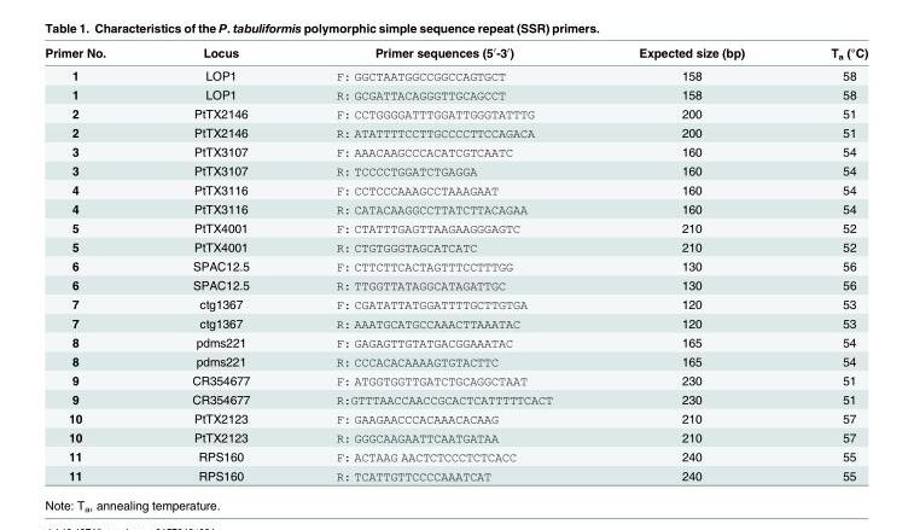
<table><thead><tr><td>Primer No.</td><td>Locus</td><td>Primer sequences (5′-3′)</td><td>Expected size (bp)</td><td>T<sub>a</sub> (°C)</td></tr></thead><tbody><tr><td>1</td><td>LOP1</td><td>F: GGCTAATGGCCGGCCAGTGCT</td><td>158</td><td>58</td></tr><tr><td>1</td><td>LOP1</td><td>R: GCGATTACAGGGTTGCAGCCT</td><td>158</td><td>58</td></tr><tr><td>2</td><td>PtTX2146</td><td>F: CCTGGGGATTTGGATTGGGTATTTG</td><td>200</td><td>51</td></tr><tr><td>2</td><td>PtTX2146</td><td>R: ATATTTTCCTTGCCCCTTCCAGACA</td><td>200</td><td>51</td></tr><tr><td>3</td><td>PtTX3107</td><td>F: AAACAAGCCCACATCGTCAATC</td><td>160</td><td>54</td></tr><tr><td>3</td><td>PtTX3107</td><td>R: TCCCCTGGATCTGAGGA</td><td>160</td><td>54</td></tr><tr><td>4</td><td>PtTX3116</td><td>F: CCTCCCAAAGCCTAAAGAAT</td><td>160</td><td>54</td></tr><tr><td>4</td><td>PtTX3116</td><td>R: CATACAAGGCCTTATCTTACAGAA</td><td>160</td><td>54</td></tr><tr><td>5</td><td>PtTX4001</td><td>F: CTATTTGAGTTAAGAAGGGAGTC</td><td>210</td><td>52</td></tr><tr><td>5</td><td>PtTX4001</td><td>R: CTGTGGGTAGCATCATC</td><td>210</td><td>52</td></tr><tr><td>6</td><td>SPAC12.5</td><td>F: CTTCTTCACTAGTTTCCTTTGG</td><td>130</td><td>56</td></tr><tr><td>6</td><td>SPAC12.5</td><td>R: TTGGTTATAGGCATAGATTGC</td><td>130</td><td>56</td></tr><tr><td>7</td><td>ctg1367</td><td>F: CGATATTATGGATTTTGCTTGTGA</td><td>120</td><td>53</td></tr><tr><td>7</td><td>ctg1367</td><td>R: AAATGCATGCCAAACTTAAATAC</td><td>120</td><td>53</td></tr><tr><td>8</td><td>pdms221</td><td>F: GAGAGTTGTATGACGGAAATAC</td><td>165</td><td>54</td></tr><tr><td>8</td><td>pdms221</td><td>R: CCCACACAAAAGTGTACTTC</td><td>165</td><td>54</td></tr><tr><td>9</td><td>CR354677</td><td>F: ATGGTGGTTGATCTGCAGGCTAAT</td><td>230</td><td>51</td></tr><tr><td>9</td><td>CR354677</td><td>R:GTTTAACCAACCGCACTCATTTTTCACT</td><td>230</td><td>51</td></tr><tr><td>10</td><td>PtTX2123</td><td>F: GAAGAACCCACAAACACAAG</td><td>210</td><td>57</td></tr><tr><td>10</td><td>PtTX2123</td><td>R: GGGCAAGAATTCAATGATAA</td><td>210</td><td>57</td></tr><tr><td>11</td><td>RPS160</td><td>F: ACTAAG AACTCTCCCTCTCACC</td><td>240</td><td>55</td></tr><tr><td>11</td><td>RPS160</td><td>R: TCATTGTTCCCCAAATCAT</td><td>240</td><td>55</td></tr></tbody></table>